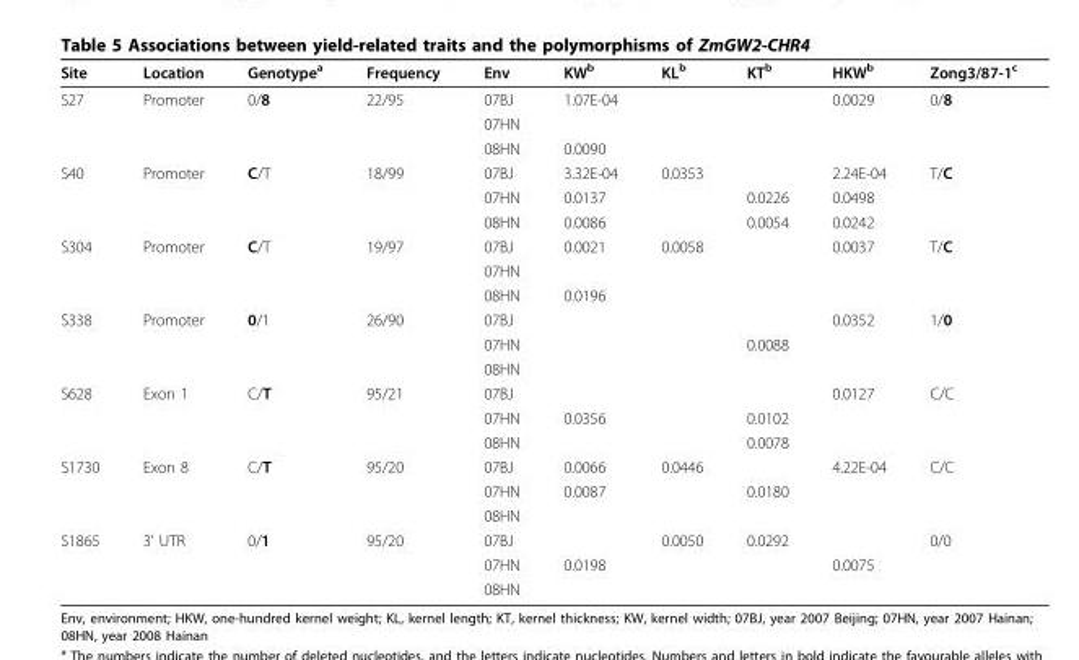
<table><thead><tr><td>Site</td><td>Location</td><td>Genotype<sup>a</sup></td><td>Frequency</td><td>Env</td><td>KW<sup>b</sup></td><td>KL<sup>b</sup></td><td>KT<sup>b</sup></td><td>HKW<sup>b</sup></td><td>Zong3/87-1<sup>c</sup></td></tr></thead><tbody><tr><td rowspan="3">S27</td><td>Promoter</td><td>0/8</td><td>22/95</td><td>07BJ</td><td>1.07E-04</td><td></td><td></td><td>0.0029</td><td>0/8</td></tr><tr><td></td><td></td><td></td><td>07HN</td><td></td><td></td><td></td><td></td><td></td></tr><tr><td></td><td></td><td></td><td>08HN</td><td>0.0090</td><td></td><td></td><td></td><td></td></tr><tr><td rowspan="3">S40</td><td>Promoter</td><td>C/T</td><td>18/99</td><td>07BJ</td><td>3.32E-04</td><td>0.0353</td><td></td><td>2.24E-04</td><td>T/C</td></tr><tr><td></td><td></td><td></td><td>07HN</td><td>0.0137</td><td></td><td>0.0226</td><td>0.0498</td><td></td></tr><tr><td></td><td></td><td></td><td>08HN</td><td>0.0086</td><td></td><td>0.0054</td><td>0.0242</td><td></td></tr><tr><td rowspan="3">S304</td><td>Promoter</td><td>C/T</td><td>19/97</td><td>07BJ</td><td>0.0021</td><td>0.0058</td><td></td><td>0.0037</td><td>T/C</td></tr><tr><td></td><td></td><td></td><td>07HN</td><td></td><td></td><td></td><td></td><td></td></tr><tr><td></td><td></td><td></td><td>08HN</td><td>0.0196</td><td></td><td></td><td></td><td></td></tr><tr><td rowspan="3">S338</td><td>Promoter</td><td>0/1</td><td>26/90</td><td>07BJ</td><td></td><td></td><td></td><td>0.0352</td><td>1/0</td></tr><tr><td></td><td></td><td></td><td>07HN</td><td></td><td></td><td>0.0088</td><td></td><td></td></tr><tr><td></td><td></td><td></td><td>08HN</td><td></td><td></td><td></td><td></td><td></td></tr><tr><td rowspan="3">S628</td><td>Exon 1</td><td>C/T</td><td>95/21</td><td>07BJ</td><td></td><td></td><td></td><td>0.0127</td><td>C/C</td></tr><tr><td></td><td></td><td></td><td>07HN</td><td>0.0356</td><td></td><td>0.0102</td><td></td><td></td></tr><tr><td></td><td></td><td></td><td>08HN</td><td></td><td></td><td>0.0078</td><td></td><td></td></tr><tr><td rowspan="3">S1730</td><td>Exon 8</td><td>C/T</td><td>95/20</td><td>07BJ</td><td>0.0066</td><td>0.0446</td><td></td><td>4.22E-04</td><td>C/C</td></tr><tr><td></td><td></td><td></td><td>07HN</td><td>0.0087</td><td></td><td>0.0180</td><td></td><td></td></tr><tr><td></td><td></td><td></td><td>08HN</td><td></td><td></td><td></td><td></td><td></td></tr><tr><td rowspan="3">S1865</td><td>3’ UTR</td><td>0/1</td><td>95/20</td><td>07BJ</td><td></td><td>0.0050</td><td>0.0292</td><td></td><td>0/0</td></tr><tr><td></td><td></td><td></td><td>07HN</td><td>0.0198</td><td></td><td></td><td>0.0075</td><td></td></tr><tr><td></td><td></td><td></td><td>08HN</td><td></td><td></td><td></td><td></td><td></td></tr></tbody></table>